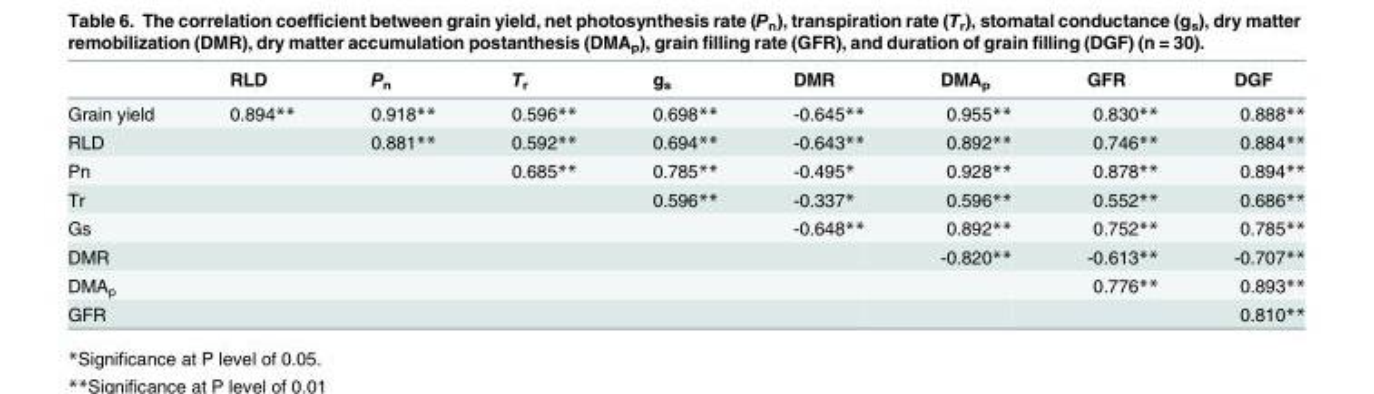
<table><thead><tr><td></td><td>RLD</td><td>P<sub>n</sub></td><td>T<sub>r</sub></td><td>g<sub>s</sub></td><td>DMR</td><td>DMA<sub>p</sub></td><td>GFR</td><td>DGF</td></tr></thead><tbody><tr><td>Grain yield</td><td>0.894**</td><td>0.918**</td><td>0.596**</td><td>0.698**</td><td>-0.645**</td><td>0.955**</td><td>0.830**</td><td>0.888**</td></tr><tr><td>RLD</td><td></td><td>0.881**</td><td>0.592**</td><td>0.694**</td><td>-0.643**</td><td>0.892**</td><td>0.746**</td><td>0.884**</td></tr><tr><td>Pn</td><td></td><td></td><td>0.685**</td><td>0.785**</td><td>-0.495*</td><td>0.928**</td><td>0.878**</td><td>0.894**</td></tr><tr><td>Tr</td><td></td><td></td><td></td><td>0.596**</td><td>-0.337*</td><td>0.596**</td><td>0.552**</td><td>0.686**</td></tr><tr><td>Gs</td><td></td><td></td><td></td><td></td><td>-0.648**</td><td>0.892**</td><td>0.752**</td><td>0.785**</td></tr><tr><td>DMR</td><td></td><td></td><td></td><td></td><td></td><td>-0.820**</td><td>-0.613**</td><td>-0.707**</td></tr><tr><td>DMA<sub>p</sub></td><td></td><td></td><td></td><td></td><td></td><td></td><td>0.776**</td><td>0.893**</td></tr><tr><td>GFR</td><td></td><td></td><td></td><td></td><td></td><td></td><td></td><td>0.810**</td></tr></tbody></table>